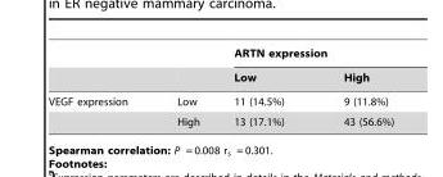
<table><thead><tr><td rowspan="2"></td><td rowspan="2"></td><td colspan="2">ARTN expression</td></tr><tr><td>Low</td><td>High</td></tr></thead><tbody><tr><td rowspan="2">VEGF expression</td><td>Low</td><td>11 (14.5%)</td><td>9 (11.8%)</td></tr><tr><td>High</td><td>13 (17.1%)</td><td>43 (56.6%)</td></tr></tbody></table>